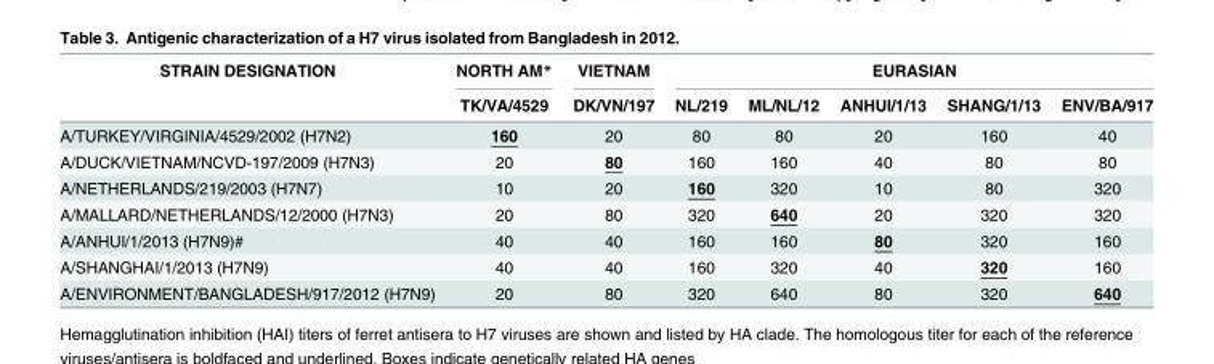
<table><thead><tr><td rowspan="2">STRAIN DESIGNATION</td><td rowspan="2">NORTH AM* TK/VA/4529</td><td rowspan="2">VIETNAM DK/VN/197</td><td colspan="5">EURASIAN</td></tr><tr><td>NL/219</td><td>ML/NL/12</td><td>ANHUI/1/13</td><td>SHANG/1/13</td><td>ENV/BA/917</td></tr></thead><tbody><tr><td>A/TURKEY/VIRGINIA/4529/2002 (H7N2)</td><td>160</td><td>20</td><td>80</td><td>80</td><td>20</td><td>160</td><td>40</td></tr><tr><td>A/DUCK/VIETNAM/NCVD-197/2009 (H7N3)</td><td>20</td><td>80</td><td>160</td><td>160</td><td>40</td><td>80</td><td>80</td></tr><tr><td>A/NETHERLANDS/219/2003 (H7N7)</td><td>10</td><td>20</td><td>160</td><td>320</td><td>10</td><td>80</td><td>320</td></tr><tr><td>A/MALLARD/NETHERLANDS/12/2000 (H7N3)</td><td>20</td><td>80</td><td>320</td><td>640</td><td>20</td><td>320</td><td>320</td></tr><tr><td>A/ANHUI/1/2013 (H7N9)#</td><td>40</td><td>40</td><td>160</td><td>160</td><td>80</td><td>320</td><td>160</td></tr><tr><td>A/SHANGHAI/1/2013 (H7N9)</td><td>40</td><td>40</td><td>160</td><td>320</td><td>40</td><td>320</td><td>160</td></tr><tr><td>A/ENVIRONMENT/BANGLADESH/917/2012 (H7N9)</td><td>20</td><td>80</td><td>320</td><td>640</td><td>80</td><td>320</td><td>640</td></tr></tbody></table>